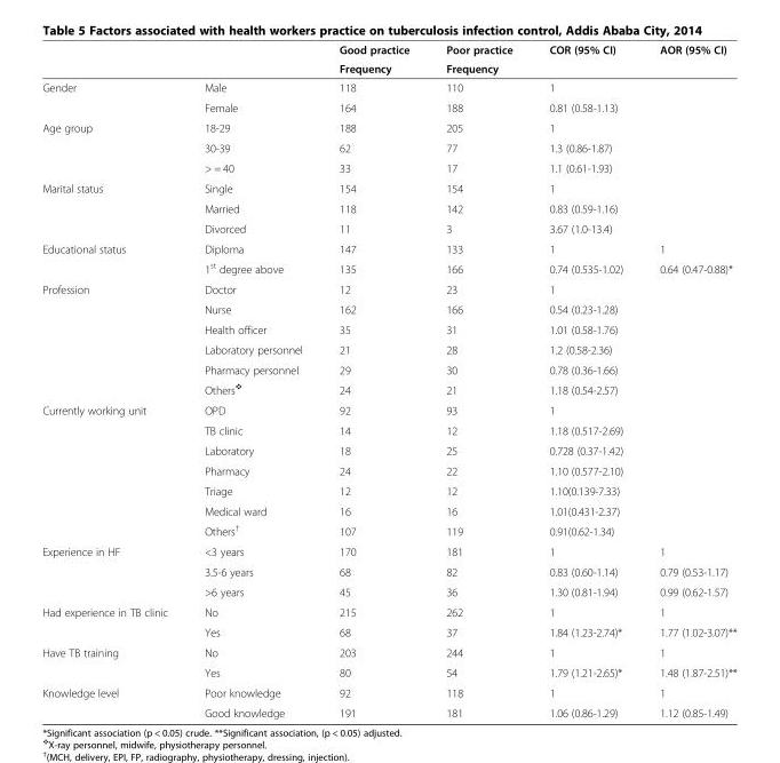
<table><thead><tr><td rowspan="2"></td><td rowspan="2"></td><td rowspan="2">Good practice Frequency</td><td rowspan="2">Poor practice Frequency</td><td rowspan="2">COR (95% CI)</td><td rowspan="2">AOR (95% CI)</td></tr><tr></tr></thead><tbody><tr><td rowspan="2">Gender</td><td>Male</td><td>118</td><td>110</td><td>1</td><td></td></tr><tr><td>Female</td><td>164</td><td>188</td><td>0.81 (0.58-1.13)</td><td></td></tr><tr><td rowspan="3">Age group</td><td>18-29</td><td>188</td><td>205</td><td>1</td><td></td></tr><tr><td>30-39</td><td>62</td><td>77</td><td>1.3 (0.86-1.87)</td><td></td></tr><tr><td>&gt; = 40</td><td>33</td><td>17</td><td>1.1 (0.61-1.93)</td><td></td></tr><tr><td rowspan="3">Marital status</td><td>Single</td><td>154</td><td>154</td><td>1</td><td></td></tr><tr><td>Married</td><td>118</td><td>142</td><td>0.83 (0.59-1.16)</td><td></td></tr><tr><td>Divorced</td><td>11</td><td>3</td><td>3.67 (1.0-13.4)</td><td></td></tr><tr><td rowspan="2">Educational status</td><td>Diploma</td><td>147</td><td>133</td><td>1</td><td>1</td></tr><tr><td>1<sup>st</sup> degree above</td><td>135</td><td>166</td><td>0.74 (0.535-1.02)</td><td>0.64 (0.47-0.88)*</td></tr><tr><td rowspan="6">Profession</td><td>Doctor</td><td>12</td><td>23</td><td>1</td><td></td></tr><tr><td>Nurse</td><td>162</td><td>166</td><td>0.54 (0.23-1.28)</td><td></td></tr><tr><td>Health officer</td><td>35</td><td>31</td><td>1.01 (0.58-1.76)</td><td></td></tr><tr><td>Laboratory personnel</td><td>21</td><td>28</td><td>1.2 (0.58-2.36)</td><td></td></tr><tr><td>Pharmacy personnel</td><td>29</td><td>30</td><td>0.78 (0.36-1.66)</td><td></td></tr><tr><td>Others<sup>❖</sup></td><td>24</td><td>21</td><td>1.18 (0.54-2.57)</td><td></td></tr><tr><td rowspan="7">Currently working unit</td><td>OPD</td><td>92</td><td>93</td><td>1</td><td></td></tr><tr><td>TB clinic</td><td>14</td><td>12</td><td>1.18 (0.517-2.69)</td><td></td></tr><tr><td>Laboratory</td><td>18</td><td>25</td><td>0.728 (0.37-1.42)</td><td></td></tr><tr><td>Pharmacy</td><td>24</td><td>22</td><td>1.10 (0.577-2.10)</td><td></td></tr><tr><td>Triage</td><td>12</td><td>12</td><td>1.10(0.139-7.33)</td><td></td></tr><tr><td>Medical ward</td><td>16</td><td>16</td><td>1.01(0.431-2.37)</td><td></td></tr><tr><td>Others<sup>†</sup></td><td>107</td><td>119</td><td>0.91(0.62-1.34)</td><td></td></tr><tr><td rowspan="3">Experience in HF</td><td>&lt;3 years</td><td>170</td><td>181</td><td>1</td><td>1</td></tr><tr><td>3.5-6 years</td><td>68</td><td>82</td><td>0.83 (0.60-1.14)</td><td>0.79 (0.53-1.17)</td></tr><tr><td>&gt;6 years</td><td>45</td><td>36</td><td>1.30 (0.81-1.94)</td><td>0.99 (0.62-1.57)</td></tr><tr><td rowspan="2">Had experience in TB clinic</td><td>No</td><td>215</td><td>262</td><td>1</td><td>1</td></tr><tr><td>Yes</td><td>68</td><td>37</td><td>1.84 (1.23-2.74)*</td><td>1.77 (1.02-3.07)**</td></tr><tr><td rowspan="2">Have TB training</td><td>No</td><td>203</td><td>244</td><td>1</td><td>1</td></tr><tr><td>Yes</td><td>80</td><td>54</td><td>1.79 (1.21-2.65)*</td><td>1.48 (1.87-2.51)**</td></tr><tr><td rowspan="2">Knowledge level</td><td>Poor knowledge</td><td>92</td><td>118</td><td>1</td><td>1</td></tr><tr><td>Good knowledge</td><td>191</td><td>181</td><td>1.06 (0.86-1.29)</td><td>1.12 (0.85-1.49)</td></tr></tbody></table>